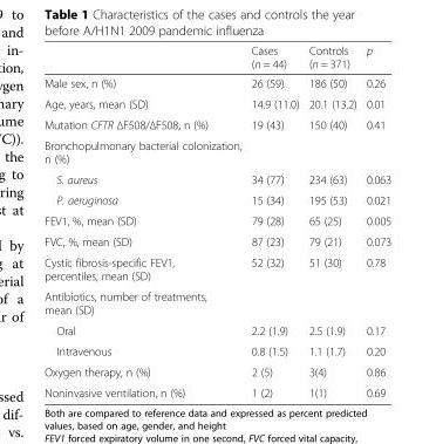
<table><thead><tr><td></td><td>Cases (n = 44)</td><td>Controls (n = 371)</td><td>p</td></tr></thead><tbody><tr><td>Male sex, n (%)</td><td>26 (59)</td><td>186 (50)</td><td>0.26</td></tr><tr><td>Age, years, mean (SD)</td><td>14.9 (11.0)</td><td>20.1 (13.2)</td><td>0.01</td></tr><tr><td>Mutation CFTR ΔF508/ΔF508, n (%)</td><td>19 (43)</td><td>150 (40)</td><td>0.41</td></tr><tr><td colspan="4">Bronchopulmonary bacterial colonization, n (%)</td></tr><tr><td>S. aureus</td><td>34 (77)</td><td>234 (63)</td><td>0.063</td></tr><tr><td>P. aeruginosa</td><td>15 (34)</td><td>195 (53)</td><td>0.021</td></tr><tr><td>FEV1, %, mean (SD)</td><td>79 (28)</td><td>65 (25)</td><td>0.005</td></tr><tr><td>FVC, %, mean (SD)</td><td>87 (23)</td><td>79 (21)</td><td>0.073</td></tr><tr><td>Cystic fibrosis-specific FEV1, percentiles, mean (SD)</td><td>52 (32)</td><td>51 (30)</td><td>0.78</td></tr><tr><td colspan="4">Antibiotics, number of treatments, mean (SD)</td></tr><tr><td>Oral</td><td>2.2 (1.9)</td><td>2.5 (1.9)</td><td>0.17</td></tr><tr><td>Intravenous</td><td>0.8 (1.5)</td><td>1.1 (1.7)</td><td>0.20</td></tr><tr><td>Oxygen therapy, n (%)</td><td>2 (5)</td><td>3(4)</td><td>0.86</td></tr><tr><td>Noninvasive ventilation, n (%)</td><td>1 (2)</td><td>1(1)</td><td>0.69</td></tr></tbody></table>